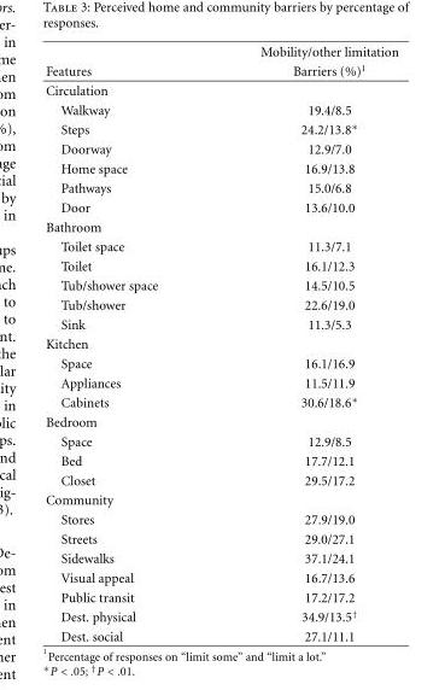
<table><thead><tr><td rowspan="2">Features</td><td rowspan="2">Mobility/other limitation Barriers (%)<sup>1</sup></td></tr><tr></tr></thead><tbody><tr><td colspan="2">Circulation</td></tr><tr><td>Walkway</td><td>19.4/8.5</td></tr><tr><td>Steps</td><td>24.2/13.8∗</td></tr><tr><td>Doorway</td><td>12.9/7.0</td></tr><tr><td>Home space</td><td>16.9/13.8</td></tr><tr><td>Pathways</td><td>15.0/6.8</td></tr><tr><td>Door</td><td>13.6/10.0</td></tr><tr><td colspan="2">Bathroom</td></tr><tr><td>Toilet space</td><td>11.3/7.1</td></tr><tr><td>Toilet</td><td>16.1/12.3</td></tr><tr><td>Tub/shower space</td><td>14.5/10.5</td></tr><tr><td>Tub/shower</td><td>22.6/19.0</td></tr><tr><td>Sink</td><td>11.3/5.3</td></tr><tr><td colspan="2">Kitchen</td></tr><tr><td>Space</td><td>16.1/16.9</td></tr><tr><td>Appliances</td><td>11.5/11.9</td></tr><tr><td>Cabinets</td><td>30.6/18.6∗</td></tr><tr><td colspan="2">Bedroom</td></tr><tr><td>Space</td><td>12.9/8.5</td></tr><tr><td>Bed</td><td>17.7/12.1</td></tr><tr><td>Closet</td><td>29.5/17.2</td></tr><tr><td colspan="2">Community</td></tr><tr><td>Stores</td><td>27.9/19.0</td></tr><tr><td>Streets</td><td>29.0/27.1</td></tr><tr><td>Sidewalks</td><td>37.1/24.1</td></tr><tr><td>Visual appeal</td><td>16.7/13.6</td></tr><tr><td>Public transit</td><td>17.2/17.2</td></tr><tr><td>Dest. physical</td><td>34.9/13.5<sup>†</sup></td></tr><tr><td>Dest. social</td><td>27.1/11.1</td></tr></tbody></table>